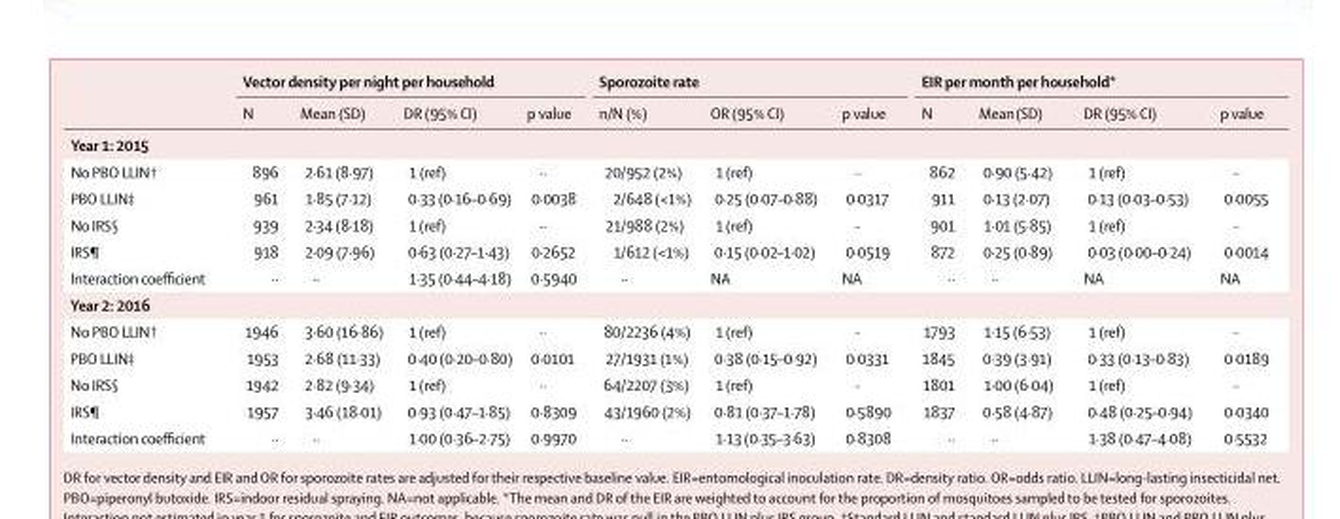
<table><thead><tr><td rowspan="2"></td><td colspan="4">Vector density per night per household</td><td colspan="3">Sporozoite rate</td><td colspan="4">EIR per month per household*</td></tr><tr><td>N</td><td>Mean (SD)</td><td>DR (95% CI)</td><td>p value</td><td>n/N (%)</td><td>OR (95% CI)</td><td>p value</td><td>N</td><td>Mean (SD)</td><td>DR (95% CI)</td><td>p value</td></tr></thead><tbody><tr><td colspan="12">Year 1: 2015</td></tr><tr><td>No PBO LLIN†</td><td>896</td><td>2·61 (8·97)</td><td>1 (ref)</td><td>··</td><td>20/952 (2%)</td><td>1 (ref)</td><td>··</td><td>862</td><td>0·90 (5·42)</td><td>1 (ref)</td><td>··</td></tr><tr><td>PBO LLIN‡</td><td>961</td><td>1·85 (7·12)</td><td>0·33 (0·16–0·69)</td><td>0·0038</td><td>2/648 (&lt;1%)</td><td>0·25 (0·07–0·88)</td><td>0·0317</td><td>911</td><td>0·13 (2·07)</td><td>0·13 (0·03–0·53)</td><td>0·0055</td></tr><tr><td>No IRS§</td><td>939</td><td>2·34 (8·18)</td><td>1 (ref)</td><td>··</td><td>21/988 (2%)</td><td>1 (ref)</td><td>··</td><td>901</td><td>1·01 (5·85)</td><td>1 (ref)</td><td>··</td></tr><tr><td>IRS¶</td><td>918</td><td>2·09 (7·96)</td><td>0·63 (0·27–1·43)</td><td>0·2652</td><td>1/612 (&lt;1%)</td><td>0·15 (0·02–1·02)</td><td>0·0519</td><td>872</td><td>0·25 (0·89)</td><td>0·03 (0·00–0·24)</td><td>0·0014</td></tr><tr><td>Interaction coefficient</td><td>··</td><td>··</td><td>1·35 (0·44–4·18)</td><td>0·5940</td><td>··</td><td>NA</td><td>NA</td><td>··</td><td>··</td><td>NA</td><td>NA</td></tr><tr><td colspan="12">Year 2: 2016</td></tr><tr><td>No PBO LLIN†</td><td>1946</td><td>3·60 (16·86)</td><td>1 (ref)</td><td>··</td><td>80/2236 (4%)</td><td>1 (ref)</td><td>··</td><td>1793</td><td>1·15 (6·53)</td><td>1 (ref)</td><td>··</td></tr><tr><td>PBO LLIN‡</td><td>1953</td><td>2·68 (11·33)</td><td>0·40 (0·20–0·80)</td><td>0·0101</td><td>27/1931 (1%)</td><td>0·38 (0·15–0·92)</td><td>0·0331</td><td>1845</td><td>0·39 (3·91)</td><td>0·33 (0·13–0·83)</td><td>0·0189</td></tr><tr><td>No IRS§</td><td>1942</td><td>2·82 (9·34)</td><td>1 (ref)</td><td>··</td><td>64/2207 (3%)</td><td>1 (ref)</td><td>··</td><td>1801</td><td>1·00 (6·04)</td><td>1 (ref)</td><td>··</td></tr><tr><td>IRS¶</td><td>1957</td><td>3·46 (18·01)</td><td>0·93 (0·47–1·85)</td><td>0·8309</td><td>43/1960 (2%)</td><td>0·81 (0·37–1·78)</td><td>0·5890</td><td>1837</td><td>0·58 (4·87)</td><td>0·48 (0·25–0·94)</td><td>0·0340</td></tr><tr><td>Interaction coefficient</td><td>··</td><td>··</td><td>1·00 (0·36–2·75)</td><td>0·9970</td><td>··</td><td>1·13 (0·35–3·63)</td><td>0·8308</td><td>··</td><td>··</td><td>1·38 (0·47–4·08)</td><td>0·5532</td></tr></tbody></table>